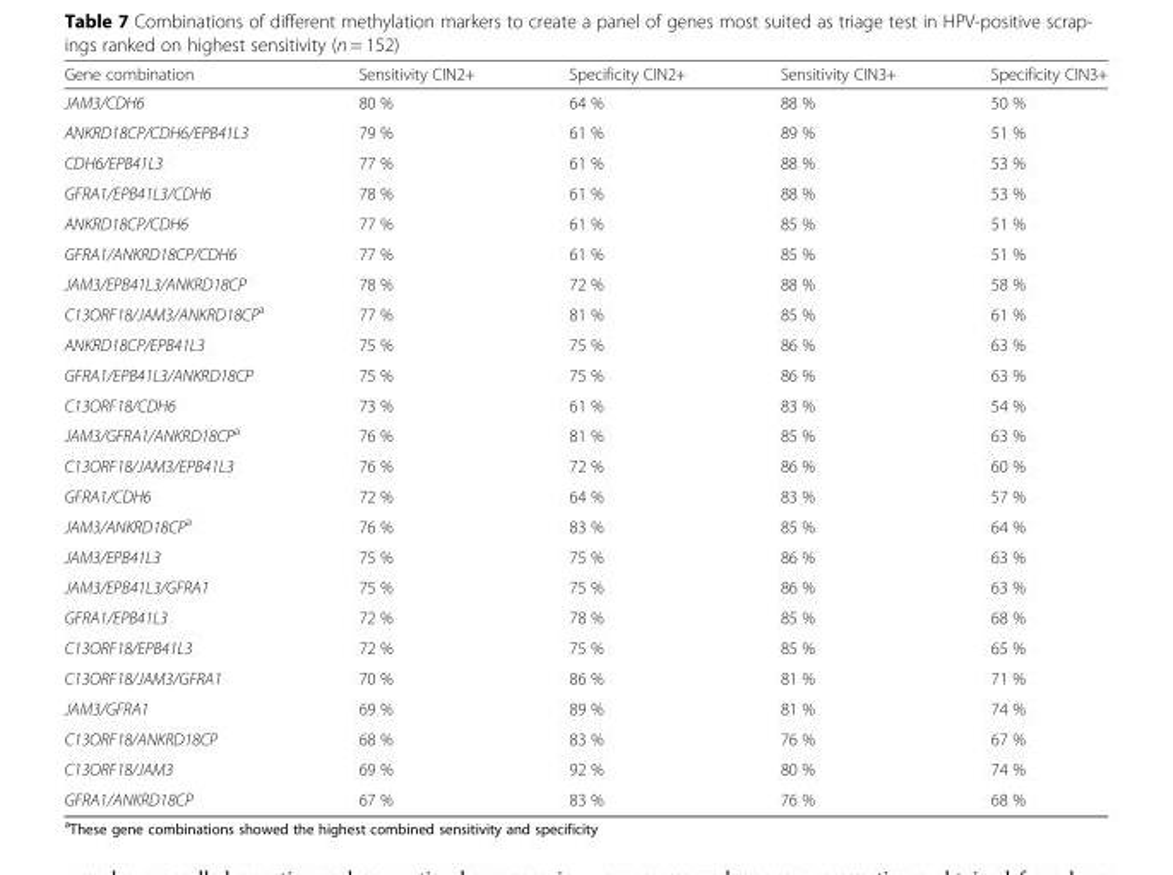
<table><thead><tr><td>Gene combination</td><td>Sensitivity CIN2+</td><td>Specificity CIN2+</td><td>Sensitivity CIN3+</td><td>Specificity CIN3+</td></tr></thead><tbody><tr><td>JAM3/CDH6</td><td>80 %</td><td>64 %</td><td>88 %</td><td>50 %</td></tr><tr><td>ANKRD18CP/CDH6/EPB41L3</td><td>79 %</td><td>61 %</td><td>89 %</td><td>51 %</td></tr><tr><td>CDH6/EPB41L3</td><td>77 %</td><td>61 %</td><td>88 %</td><td>53 %</td></tr><tr><td>GFRA1/EPB41L3/CDH6</td><td>78 %</td><td>61 %</td><td>88 %</td><td>53 %</td></tr><tr><td>ANKRD18CP/CDH6</td><td>77 %</td><td>61 %</td><td>85 %</td><td>51 %</td></tr><tr><td>GFRA1/ANKRD18CP/CDH6</td><td>77 %</td><td>61 %</td><td>85 %</td><td>51 %</td></tr><tr><td>JAM3/EPB41L3/ANKRD18CP</td><td>78 %</td><td>72 %</td><td>88 %</td><td>58 %</td></tr><tr><td>C13ORF18/JAM3/ANKRD18CP<sup>a</sup></td><td>77 %</td><td>81 %</td><td>85 %</td><td>61 %</td></tr><tr><td>ANKRD18CP/EPB41L3</td><td>75 %</td><td>75 %</td><td>86 %</td><td>63 %</td></tr><tr><td>GFRA1/EPB41L3/ANKRD18CP</td><td>75 %</td><td>75 %</td><td>86 %</td><td>63 %</td></tr><tr><td>C13ORF18/CDH6</td><td>73 %</td><td>61 %</td><td>83 %</td><td>54 %</td></tr><tr><td>JAM3/GFRA1/ANKRD18CP<sup>a</sup></td><td>76 %</td><td>81 %</td><td>85 %</td><td>63 %</td></tr><tr><td>C13ORF18/JAM3/EPB41L3</td><td>76 %</td><td>72 %</td><td>86 %</td><td>60 %</td></tr><tr><td>GFRA1/CDH6</td><td>72 %</td><td>64 %</td><td>83 %</td><td>57 %</td></tr><tr><td>JAM3/ANKRD18CP<sup>a</sup></td><td>76 %</td><td>83 %</td><td>85 %</td><td>64 %</td></tr><tr><td>JAM3/EPB41L3</td><td>75 %</td><td>75 %</td><td>86 %</td><td>63 %</td></tr><tr><td>JAM3/EPB41L3/GFRA1</td><td>75 %</td><td>75 %</td><td>86 %</td><td>63 %</td></tr><tr><td>GFRA1/EPB41L3</td><td>72 %</td><td>78 %</td><td>85 %</td><td>68 %</td></tr><tr><td>C13ORF18/EPB41L3</td><td>72 %</td><td>75 %</td><td>85 %</td><td>65 %</td></tr><tr><td>C13ORF18/JAM3/GFRA1</td><td>70 %</td><td>86 %</td><td>81 %</td><td>71 %</td></tr><tr><td>JAM3/GFRA1</td><td>69 %</td><td>89 %</td><td>81 %</td><td>74 %</td></tr><tr><td>C13ORF18/ANKRD18CP</td><td>68 %</td><td>83 %</td><td>76 %</td><td>67 %</td></tr><tr><td>C13ORF18/JAM3</td><td>69 %</td><td>92 %</td><td>80 %</td><td>74 %</td></tr><tr><td>GFRA1/ANKRD18CP</td><td>67 %</td><td>83 %</td><td>76 %</td><td>68 %</td></tr></tbody></table>